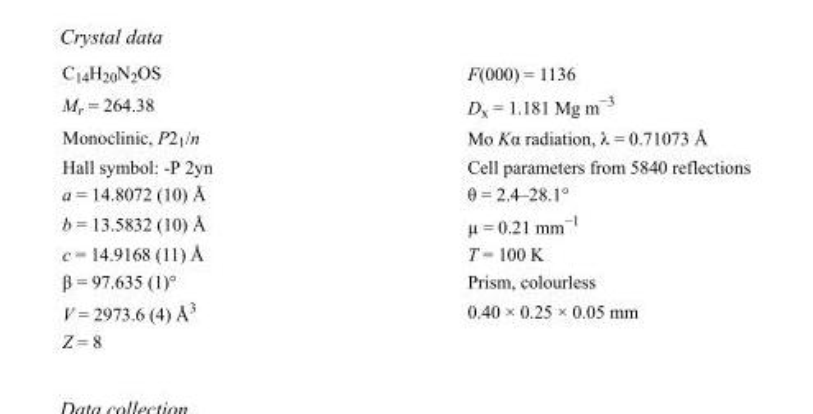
<table><tbody><tr><td>C<sub>14</sub>H<sub>20</sub>N<sub>2</sub>OS</td><td>F(000) = 1136</td></tr><tr><td>M<sub>r</sub> = 264.38</td><td>D<sub>x</sub> = 1.181 Mg m<sup>−3</sup></td></tr><tr><td>Monoclinic, P2<sub>1</sub>/n</td><td>Mo Kα radiation, λ = 0.71073 Å</td></tr><tr><td>Hall symbol: -P 2yn</td><td>Cell parameters from 5840 reflections</td></tr><tr><td>a = 14.8072 (10) Å</td><td>θ = 2.4–28.1°</td></tr><tr><td>b = 13.5832 (10) Å</td><td>µ = 0.21 mm<sup>−1</sup></td></tr><tr><td>c = 14.9168 (11) Å</td><td>T = 100 K</td></tr><tr><td>β = 97.635 (1)°</td><td>Prism, colourless</td></tr><tr><td>V = 2973.6 (4) Å<sup>3</sup></td><td>0.40 × 0.25 × 0.05 mm</td></tr><tr><td>Z = 8</td><td></td></tr></tbody></table>